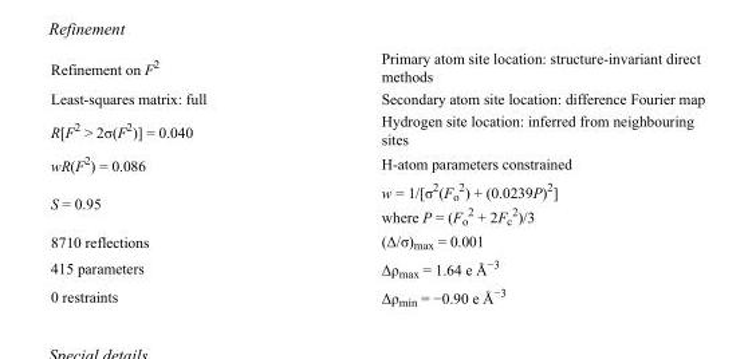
<table><tbody><tr><td>Refinement on F<sup>2</sup></td><td>Primary atom site location: structure-invariant direct methods</td></tr><tr><td>Least-squares matrix: full</td><td>Secondary atom site location: difference Fourier map</td></tr><tr><td>R[F<sup>2</sup> &gt; 2σ(F<sup>2</sup>)] = 0.040</td><td>Hydrogen site location: inferred from neighbouring sites</td></tr><tr><td>wR(F<sup>2</sup>) = 0.086</td><td>H-atom parameters constrained</td></tr><tr><td>S = 0.95</td><td>w = 1/[σ<sup>2</sup>(F<sub>o</sub> <sup>2</sup>) + (0.0239P)<sup>2</sup>] where P = (F<sub>o</sub> <sup>2</sup> + 2F<sub>c</sub> <sup>2</sup>)/3</td></tr><tr><td>8710 reflections</td><td>(Δ/σ)<sub>max</sub> = 0.001</td></tr><tr><td>415 parameters</td><td>Δρ<sub>max</sub> = 1.64 e Å<sup>−3</sup></td></tr><tr><td>0 restraints</td><td>Δρ<sub>min</sub> = −0.90 e Å<sup>−3</sup></td></tr></tbody></table>